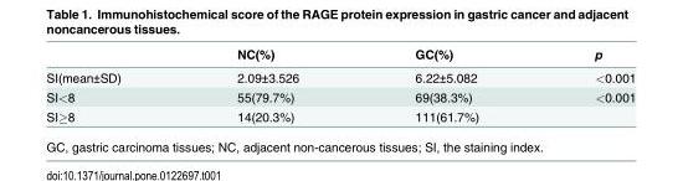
<table><thead><tr><td></td><td>NC(%)</td><td>GC(%)</td><td>p</td></tr></thead><tbody><tr><td>SI(mean±SD)</td><td>2.09±3.526</td><td>6.22±5.082</td><td>&lt;0.001</td></tr><tr><td>SI&lt;8</td><td>55(79.7%)</td><td>69(38.3%)</td><td>&lt;0.001</td></tr><tr><td>SI≥8</td><td>14(20.3%)</td><td>111(61.7%)</td><td></td></tr></tbody></table>